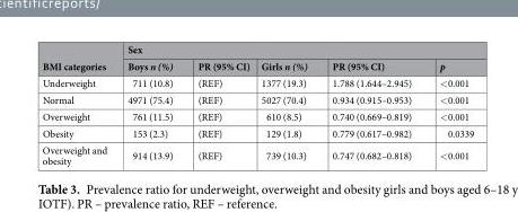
<table><thead><tr><td rowspan="2">BMI categories</td><td colspan="5">Sex</td></tr><tr><td>Boys n (%)</td><td>PR (95% CI)</td><td>Girls n (%)</td><td>PR (95% CI)</td><td>p</td></tr></thead><tbody><tr><td>Underweight</td><td>711 (10.8)</td><td>(REF)</td><td>1377 (19.3)</td><td>1.788 (1.644–2.945)</td><td>&lt;0.001</td></tr><tr><td>Normal</td><td>4971 (75.4)</td><td>(REF)</td><td>5027 (70.4)</td><td>0.934 (0.915–0.953)</td><td>&lt;0.001</td></tr><tr><td>Overweight</td><td>761 (11.5)</td><td>(REF)</td><td>610 (8.5)</td><td>0.740 (0.669–0.819)</td><td>&lt;0.001</td></tr><tr><td>Obesity</td><td>153 (2.3)</td><td>(REF)</td><td>129 (1.8)</td><td>0.779 (0.617–0.982)</td><td>0.0339</td></tr><tr><td>Overweight and obesity</td><td>914 (13.9)</td><td>(REF)</td><td>739 (10.3)</td><td>0.747 (0.682–0.818)</td><td>&lt;0.001</td></tr></tbody></table>